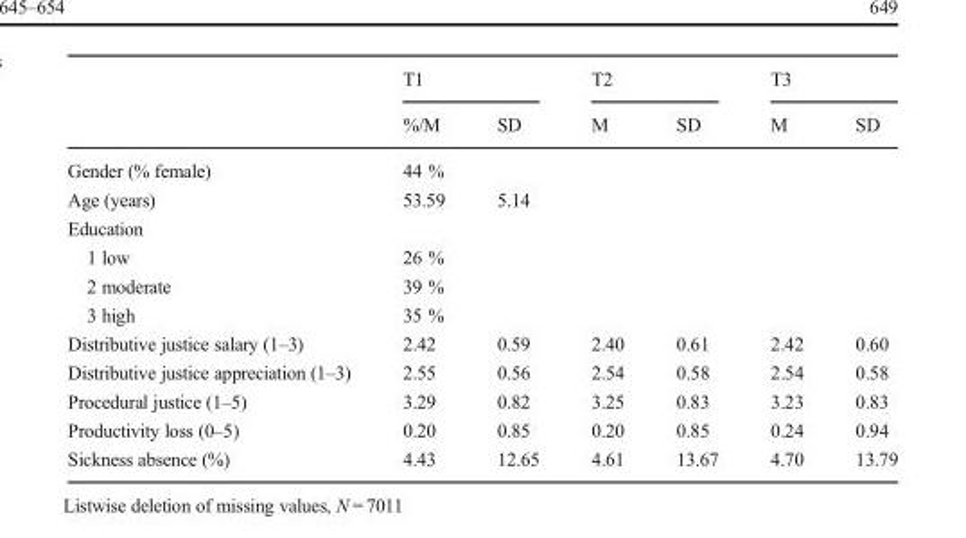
<table><thead><tr><td rowspan="2"></td><td colspan="2">T1</td><td colspan="2">T2</td><td colspan="2">T3</td></tr><tr><td>%/M</td><td>SD</td><td>M</td><td>SD</td><td>M</td><td>SD</td></tr></thead><tbody><tr><td>Gender (% female)</td><td>44 %</td><td></td><td></td><td></td><td></td><td></td></tr><tr><td>Age (years)</td><td>53.59</td><td>5.14</td><td></td><td></td><td></td><td></td></tr><tr><td colspan="7">Education</td></tr><tr><td>1 low</td><td>26 %</td><td></td><td></td><td></td><td></td><td></td></tr><tr><td>2 moderate</td><td>39 %</td><td></td><td></td><td></td><td></td><td></td></tr><tr><td>3 high</td><td>35 %</td><td></td><td></td><td></td><td></td><td></td></tr><tr><td>Distributive justice salary (1–3)</td><td>2.42</td><td>0.59</td><td>2.40</td><td>0.61</td><td>2.42</td><td>0.60</td></tr><tr><td>Distributive justice appreciation (1–3)</td><td>2.55</td><td>0.56</td><td>2.54</td><td>0.58</td><td>2.54</td><td>0.58</td></tr><tr><td>Procedural justice (1–5)</td><td>3.29</td><td>0.82</td><td>3.25</td><td>0.83</td><td>3.23</td><td>0.83</td></tr><tr><td>Productivity loss (0–5)</td><td>0.20</td><td>0.85</td><td>0.20</td><td>0.85</td><td>0.24</td><td>0.94</td></tr><tr><td>Sickness absence (%)</td><td>4.43</td><td>12.65</td><td>4.61</td><td>13.67</td><td>4.70</td><td>13.79</td></tr></tbody></table>